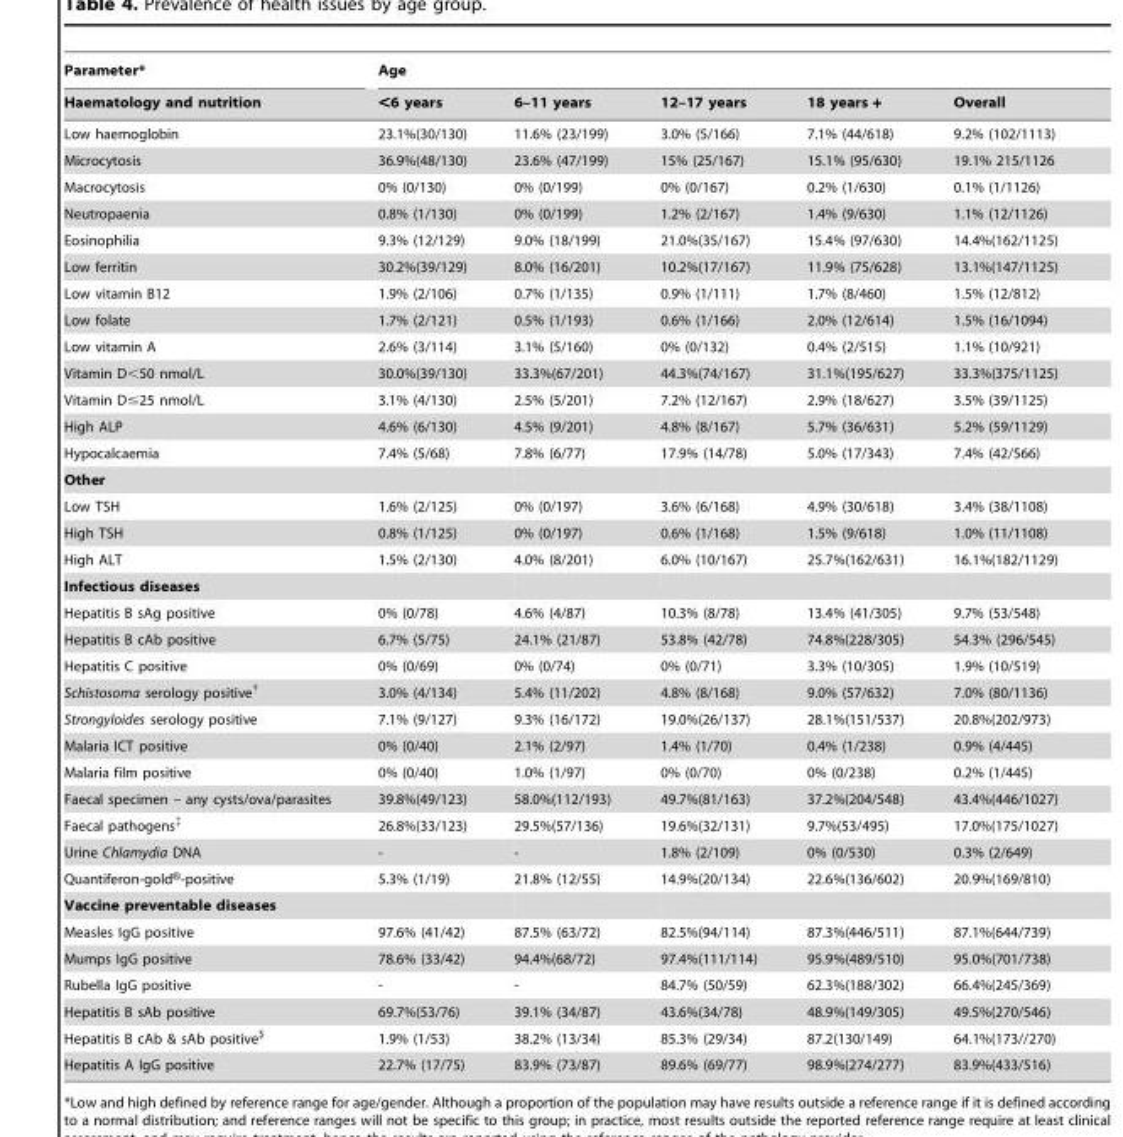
<table><thead><tr><td rowspan="2">Parameter* Haematology and nutrition</td><td colspan="5">Age</td></tr><tr><td>&lt;6 years</td><td>6–11 years</td><td>12–17 years</td><td>18 years +</td><td>Overall</td></tr></thead><tbody><tr><td>Low haemoglobin</td><td>23.1%(30/130)</td><td>11.6% (23/199)</td><td>3.0% (5/166)</td><td>7.1% (44/618)</td><td>9.2% (102/1113)</td></tr><tr><td>Microcytosis</td><td>36.9%(48/130)</td><td>23.6% (47/199)</td><td>15% (25/167)</td><td>15.1% (95/630)</td><td>19.1% 215/1126</td></tr><tr><td>Macrocytosis</td><td>0% (0/130)</td><td>0% (0/199)</td><td>0% (0/167)</td><td>0.2% (1/630)</td><td>0.1% (1/1126)</td></tr><tr><td>Neutropaenia</td><td>0.8% (1/130)</td><td>0% (0/199)</td><td>1.2% (2/167)</td><td>1.4% (9/630)</td><td>1.1% (12/1126)</td></tr><tr><td>Eosinophilia</td><td>9.3% (12/129)</td><td>9.0% (18/199)</td><td>21.0%(35/167)</td><td>15.4% (97/630)</td><td>14.4%(162/1125)</td></tr><tr><td>Low ferritin</td><td>30.2%(39/129)</td><td>8.0% (16/201)</td><td>10.2%(17/167)</td><td>11.9% (75/628)</td><td>13.1%(147/1125)</td></tr><tr><td>Low vitamin B12</td><td>1.9% (2/106)</td><td>0.7% (1/135)</td><td>0.9% (1/111)</td><td>1.7% (8/460)</td><td>1.5% (12/812)</td></tr><tr><td>Low folate</td><td>1.7% (2/121)</td><td>0.5% (1/193)</td><td>0.6% (1/166)</td><td>2.0% (12/614)</td><td>1.5% (16/1094)</td></tr><tr><td>Low vitamin A</td><td>2.6% (3/114)</td><td>3.1% (5/160)</td><td>0% (0/132)</td><td>0.4% (2/515)</td><td>1.1% (10/921)</td></tr><tr><td>Vitamin D&lt;50 nmol/L</td><td>30.0%(39/130)</td><td>33.3%(67/201)</td><td>44.3%(74/167)</td><td>31.1%(195/627)</td><td>33.3%(375/1125)</td></tr><tr><td>Vitamin D≤25 nmol/L</td><td>3.1% (4/130)</td><td>2.5% (5/201)</td><td>7.2% (12/167)</td><td>2.9% (18/627)</td><td>3.5% (39/1125)</td></tr><tr><td>High ALP</td><td>4.6% (6/130)</td><td>4.5% (9/201)</td><td>4.8% (8/167)</td><td>5.7% (36/631)</td><td>5.2% (59/1129)</td></tr><tr><td>Hypocalcaemia</td><td>7.4% (5/68)</td><td>7.8% (6/77)</td><td>17.9% (14/78)</td><td>5.0% (17/343)</td><td>7.4% (42/566)</td></tr><tr><td colspan="6">Other</td></tr><tr><td>Low TSH</td><td>1.6% (2/125)</td><td>0% (0/197)</td><td>3.6% (6/168)</td><td>4.9% (30/618)</td><td>3.4% (38/1108)</td></tr><tr><td>High TSH</td><td>0.8% (1/125)</td><td>0% (0/197)</td><td>0.6% (1/168)</td><td>1.5% (9/618)</td><td>1.0% (11/1108)</td></tr><tr><td>High ALT</td><td>1.5% (2/130)</td><td>4.0% (8/201)</td><td>6.0% (10/167)</td><td>25.7%(162/631)</td><td>16.1%(182/1129)</td></tr><tr><td colspan="6">Infectious diseases</td></tr><tr><td>Hepatitis B sAg positive</td><td>0% (0/78)</td><td>4.6% (4/87)</td><td>10.3% (8/78)</td><td>13.4% (41/305)</td><td>9.7% (53/548)</td></tr><tr><td>Hepatitis B cAb positive</td><td>6.7% (5/75)</td><td>24.1% (21/87)</td><td>53.8% (42/78)</td><td>74.8%(228/305)</td><td>54.3% (296/545)</td></tr><tr><td>Hepatitis C positive</td><td>0% (0/69)</td><td>0% (0/74)</td><td>0% (0/71)</td><td>3.3% (10/305)</td><td>1.9% (10/519)</td></tr><tr><td>Schistosoma serology positive†</td><td>3.0% (4/134)</td><td>5.4% (11/202)</td><td>4.8% (8/168)</td><td>9.0% (57/632)</td><td>7.0% (80/1136)</td></tr><tr><td>Strongyloides serology positive</td><td>7.1% (9/127)</td><td>9.3% (16/172)</td><td>19.0%(26/137)</td><td>28.1%(151/537)</td><td>20.8%(202/973)</td></tr><tr><td>Malaria ICT positive</td><td>0% (0/40)</td><td>2.1% (2/97)</td><td>1.4% (1/70)</td><td>0.4% (1/238)</td><td>0.9% (4/445)</td></tr><tr><td>Malaria film positive</td><td>0% (0/40)</td><td>1.0% (1/97)</td><td>0% (0/70)</td><td>0% (0/238)</td><td>0.2% (1/445)</td></tr><tr><td>Faecal specimen – any cysts/ova/parasites</td><td>39.8%(49/123)</td><td>58.0%(112/193)</td><td>49.7%(81/163)</td><td>37.2%(204/548)</td><td>43.4%(446/1027)</td></tr><tr><td>Faecal pathogens‡</td><td>26.8%(33/123)</td><td>29.5%(57/136)</td><td>19.6%(32/131)</td><td>9.7%(53/495)</td><td>17.0%(175/1027)</td></tr><tr><td>Urine Chlamydia DNA</td><td>-</td><td>-</td><td>1.8% (2/109)</td><td>0% (0/530)</td><td>0.3% (2/649)</td></tr><tr><td>Quantiferon-gold®-positive</td><td>5.3% (1/19)</td><td>21.8% (12/55)</td><td>14.9%(20/134)</td><td>22.6%(136/602)</td><td>20.9%(169/810)</td></tr><tr><td colspan="6">Vaccine preventable diseases</td></tr><tr><td>Measles IgG positive</td><td>97.6% (41/42)</td><td>87.5% (63/72)</td><td>82.5%(94/114)</td><td>87.3%(446/511)</td><td>87.1%(644/739)</td></tr><tr><td>Mumps IgG positive</td><td>78.6% (33/42)</td><td>94.4%(68/72)</td><td>97.4%(111/114)</td><td>95.9%(489/510)</td><td>95.0%(701/738)</td></tr><tr><td>Rubella IgG positive</td><td>-</td><td>-</td><td>84.7% (50/59)</td><td>62.3%(188/302)</td><td>66.4%(245/369)</td></tr><tr><td>Hepatitis B sAb positive</td><td>69.7%(53/76)</td><td>39.1% (34/87)</td><td>43.6%(34/78)</td><td>48.9%(149/305)</td><td>49.5%(270/546)</td></tr><tr><td>Hepatitis B cAb &amp; sAb positiveS¸</td><td>1.9% (1/53)</td><td>38.2% (13/34)</td><td>85.3% (29/34)</td><td>87.2(130/149)</td><td>64.1%(173//270)</td></tr><tr><td>Hepatitis A IgG positive</td><td>22.7% (17/75)</td><td>83.9% (73/87)</td><td>89.6% (69/77)</td><td>98.9%(274/277)</td><td>83.9%(433/516)</td></tr></tbody></table>